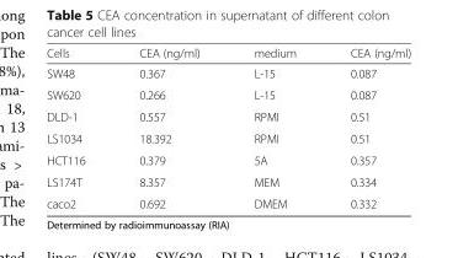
<table><thead><tr><td>Cells</td><td>CEA (ng/ml)</td><td>medium</td><td>CEA (ng/ml)</td></tr></thead><tbody><tr><td>SW48</td><td>0.367</td><td>L-15</td><td>0.087</td></tr><tr><td>SW620</td><td>0.266</td><td>L-15</td><td>0.087</td></tr><tr><td>DLD-1</td><td>0.557</td><td>RPMI</td><td>0.51</td></tr><tr><td>LS1034</td><td>18.392</td><td>RPMI</td><td>0.51</td></tr><tr><td>HCT116</td><td>0.379</td><td>5A</td><td>0.357</td></tr><tr><td>LS174T</td><td>8.357</td><td>MEM</td><td>0.334</td></tr><tr><td>caco2</td><td>0.692</td><td>DMEM</td><td>0.332</td></tr></tbody></table>